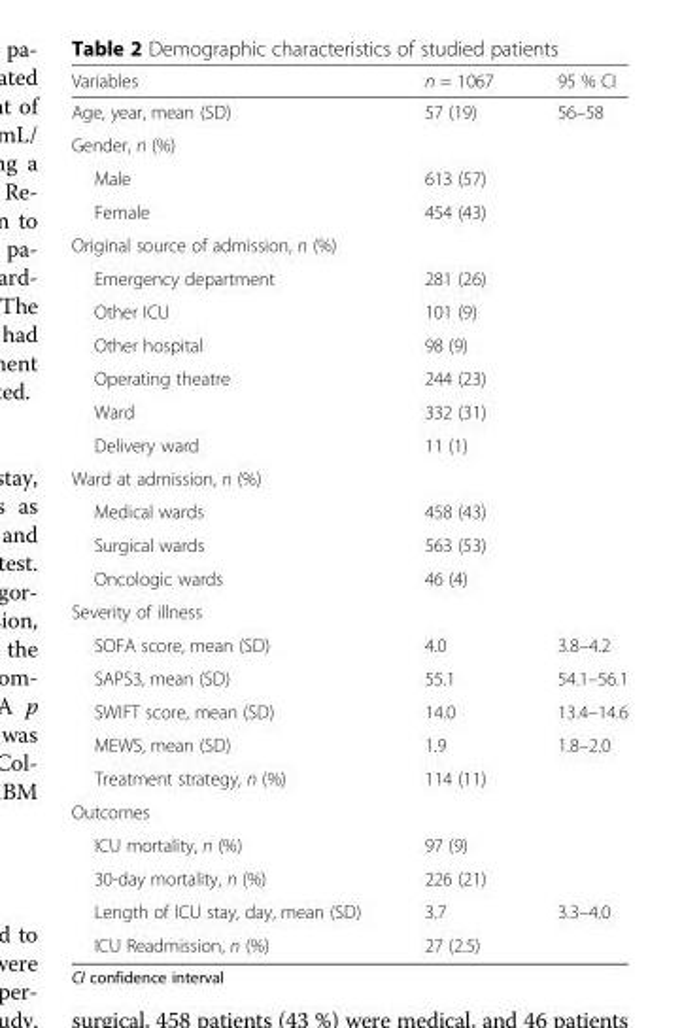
<table><thead><tr><td>Variables</td><td>n = 1067</td><td>95 % CI</td></tr></thead><tbody><tr><td>Age, year, mean (SD)</td><td>57 (19)</td><td>56–58</td></tr><tr><td colspan="3">Gender, n (%)</td></tr><tr><td>Male</td><td>613 (57)</td><td></td></tr><tr><td>Female</td><td>454 (43)</td><td></td></tr><tr><td colspan="3">Original source of admission, n (%)</td></tr><tr><td>Emergency department</td><td>281 (26)</td><td></td></tr><tr><td>Other ICU</td><td>101 (9)</td><td></td></tr><tr><td>Other hospital</td><td>98 (9)</td><td></td></tr><tr><td>Operating theatre</td><td>244 (23)</td><td></td></tr><tr><td>Ward</td><td>332 (31)</td><td></td></tr><tr><td>Delivery ward</td><td>11 (1)</td><td></td></tr><tr><td colspan="3">Ward at admission, n (%)</td></tr><tr><td>Medical wards</td><td>458 (43)</td><td></td></tr><tr><td>Surgical wards</td><td>563 (53)</td><td></td></tr><tr><td>Oncologic wards</td><td>46 (4)</td><td></td></tr><tr><td colspan="3">Severity of illness</td></tr><tr><td>SOFA score, mean (SD)</td><td>4.0</td><td>3.8–4.2</td></tr><tr><td>SAPS3, mean (SD)</td><td>55.1</td><td>54.1–56.1</td></tr><tr><td>SWIFT score, mean (SD)</td><td>14.0</td><td>13.4–14.6</td></tr><tr><td>MEWS, mean (SD)</td><td>1.9</td><td>1.8–2.0</td></tr><tr><td>Treatment strategy, n (%)</td><td>114 (11)</td><td></td></tr><tr><td colspan="3">Outcomes</td></tr><tr><td>ICU mortality, n (%)</td><td>97 (9)</td><td></td></tr><tr><td>30-day mortality, n (%)</td><td>226 (21)</td><td></td></tr><tr><td>Length of ICU stay, day, mean (SD)</td><td>3.7</td><td>3.3–4.0</td></tr><tr><td>ICU Readmission, n (%)</td><td>27 (2.5)</td><td></td></tr></tbody></table>